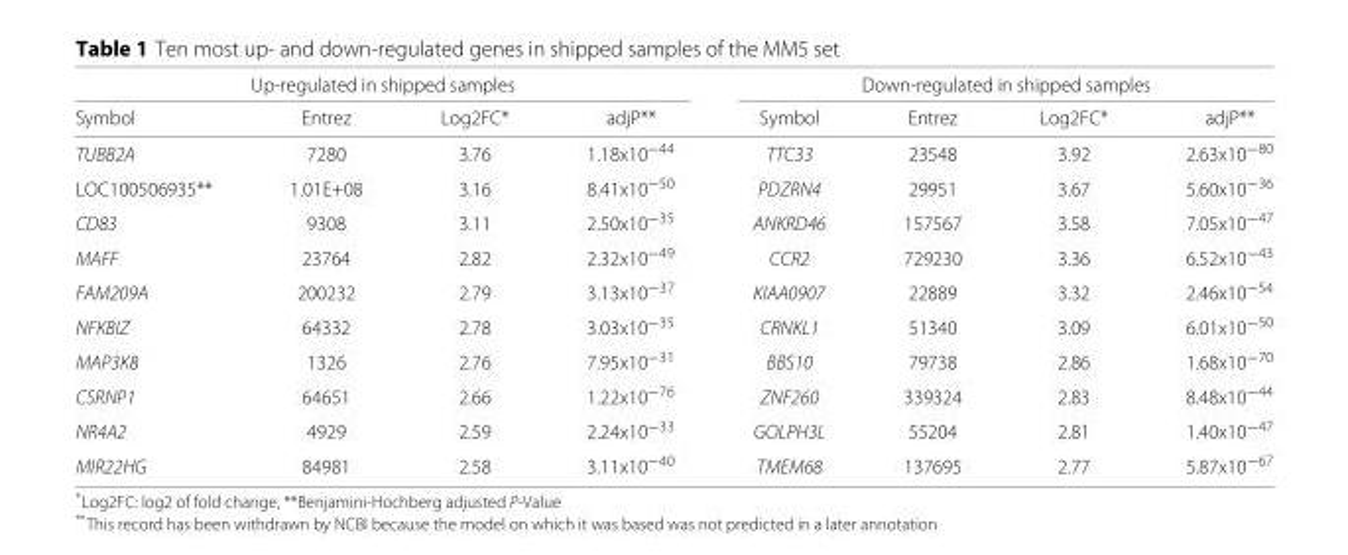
<table><thead><tr><td colspan="4">Up-regulated in shipped samples</td><td colspan="4">Down-regulated in shipped samples</td></tr><tr><td>Symbol</td><td>Entrez</td><td>Log2FC*</td><td>adjP**</td><td>Symbol</td><td>Entrez</td><td>Log2FC*</td><td>adjP**</td></tr></thead><tbody><tr><td>TUBB2A</td><td>7280</td><td>3.76</td><td>1.18x10<sup>−44</sup></td><td>TTC33</td><td>23548</td><td>3.92</td><td>2.63x10<sup>−80</sup></td></tr><tr><td>LOC100506935**</td><td>1.01E+08</td><td>3.16</td><td>8.41x10<sup>−50</sup></td><td>PDZRN4</td><td>29951</td><td>3.67</td><td>5.60x10<sup>−36</sup></td></tr><tr><td>CD83</td><td>9308</td><td>3.11</td><td>2.50x10<sup>−35</sup></td><td>ANKRD46</td><td>157567</td><td>3.58</td><td>7.05x10<sup>−47</sup></td></tr><tr><td>MAFF</td><td>23764</td><td>2.82</td><td>2.32x10<sup>−49</sup></td><td>CCR2</td><td>729230</td><td>3.36</td><td>6.52x10<sup>−43</sup></td></tr><tr><td>FAM209A</td><td>200232</td><td>2.79</td><td>3.13x10<sup>−37</sup></td><td>KIAA0907</td><td>22889</td><td>3.32</td><td>2.46x10<sup>−54</sup></td></tr><tr><td>NFKBIZ</td><td>64332</td><td>2.78</td><td>3.03x10<sup>−35</sup></td><td>CRNKL1</td><td>51340</td><td>3.09</td><td>6.01x10<sup>−50</sup></td></tr><tr><td>MAP3K8</td><td>1326</td><td>2.76</td><td>7.95x10<sup>−31</sup></td><td>BBS10</td><td>79738</td><td>2.86</td><td>1.68x10<sup>−70</sup></td></tr><tr><td>CSRNP1</td><td>64651</td><td>2.66</td><td>1.22x10<sup>−76</sup></td><td>ZNF260</td><td>339324</td><td>2.83</td><td>8.48x10<sup>−44</sup></td></tr><tr><td>NR4A2</td><td>4929</td><td>2.59</td><td>2.24x10<sup>−33</sup></td><td>GOLPH3L</td><td>55204</td><td>2.81</td><td>1.40x10<sup>−47</sup></td></tr><tr><td>MIR22HG</td><td>84981</td><td>2.58</td><td>3.11x10<sup>−40</sup></td><td>TMEM68</td><td>137695</td><td>2.77</td><td>5.87x10<sup>−67</sup></td></tr></tbody></table>